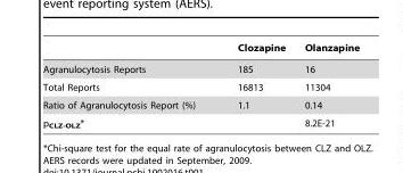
<table><thead><tr><td></td><td>Clozapine</td><td>Olanzapine</td></tr></thead><tbody><tr><td>Agranulocytosis Reports</td><td>185</td><td>16</td></tr><tr><td>Total Reports</td><td>16813</td><td>11304</td></tr><tr><td>Ratio of Agranulocytosis Report (%)</td><td>1.1</td><td>0.14</td></tr><tr><td colspan="2">p<sub>CLZ-OLZ</sub>*</td><td>8.2E-21</td></tr></tbody></table>